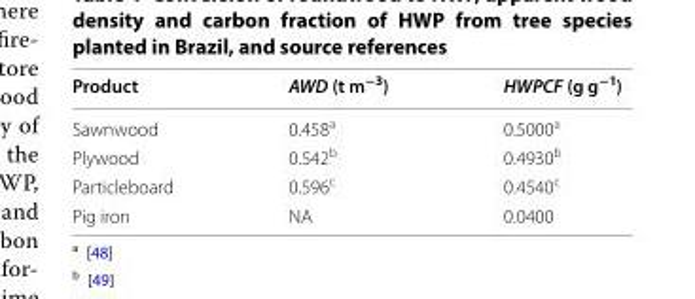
<table><thead><tr><td>Product</td><td>AWD (t m<sup>−3</sup>)</td><td>HWPCF (g g<sup>−1</sup>)</td></tr></thead><tbody><tr><td>Sawnwood</td><td>0.458<sup>a</sup></td><td>0.5000<sup>a</sup></td></tr><tr><td>Plywood</td><td>0.542<sup>b</sup></td><td>0.4930<sup>b</sup></td></tr><tr><td>Particleboard</td><td>0.596<sup>c</sup></td><td>0.4540<sup>c</sup></td></tr><tr><td>Pig iron</td><td>NA</td><td>0.0400</td></tr></tbody></table>